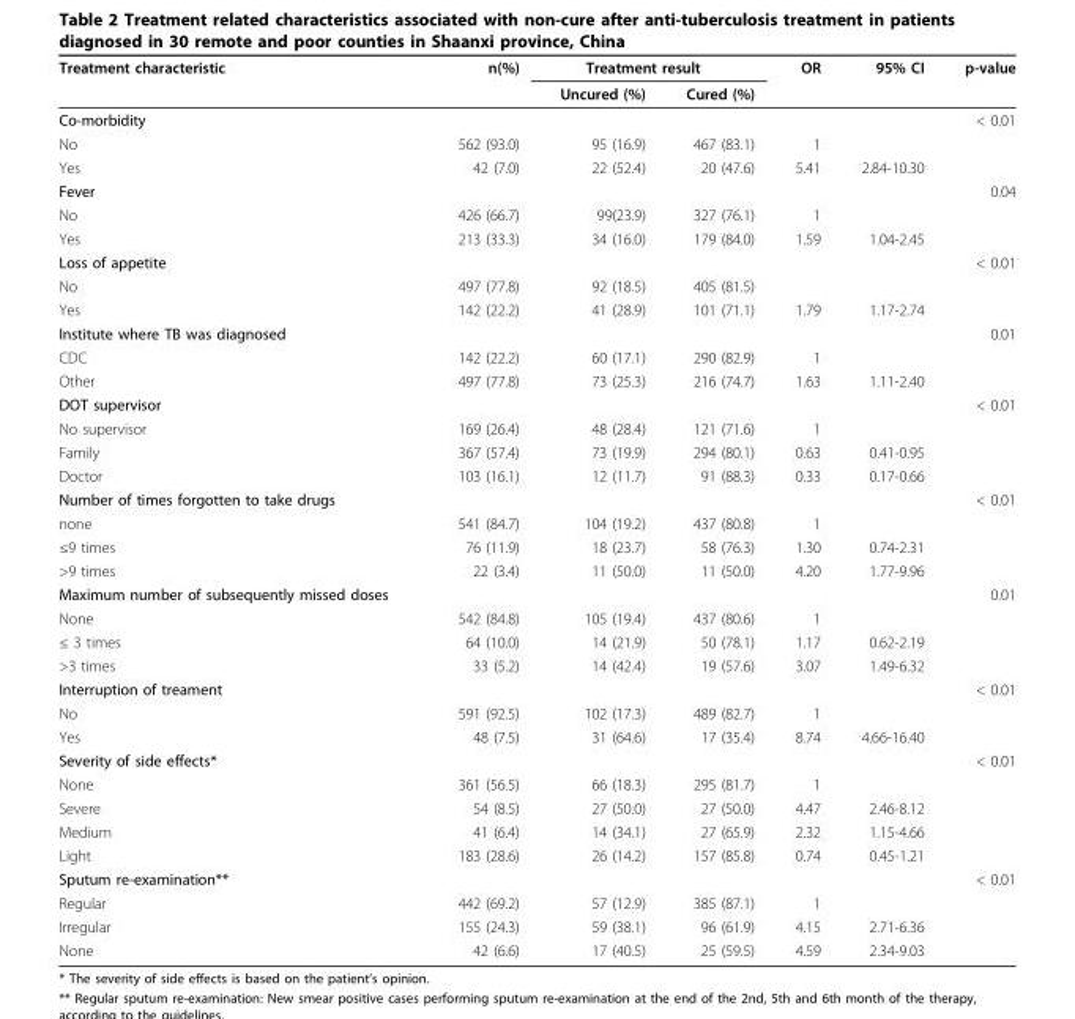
<table><thead><tr><td rowspan="2">Treatment characteristic</td><td rowspan="2">n(%)</td><td colspan="2">Treatment result</td><td rowspan="2">OR</td><td rowspan="2">95% CI</td><td rowspan="2">p-value</td></tr><tr><td>Uncured (%)</td><td>Cured (%)</td></tr></thead><tbody><tr><td>Co-morbidity</td><td></td><td></td><td></td><td></td><td></td><td>&lt; 0.01</td></tr><tr><td>No</td><td>562 (93.0)</td><td>95 (16.9)</td><td>467 (83.1)</td><td>1</td><td></td><td></td></tr><tr><td>Yes</td><td>42 (7.0)</td><td>22 (52.4)</td><td>20 (47.6)</td><td>5.41</td><td>2.84-10.30</td><td></td></tr><tr><td>Fever</td><td></td><td></td><td></td><td></td><td></td><td>0.04</td></tr><tr><td>No</td><td>426 (66.7)</td><td>99(23.9)</td><td>327 (76.1)</td><td>1</td><td></td><td></td></tr><tr><td>Yes</td><td>213 (33.3)</td><td>34 (16.0)</td><td>179 (84.0)</td><td>1.59</td><td>1.04-2.45</td><td></td></tr><tr><td>Loss of appetite</td><td></td><td></td><td></td><td></td><td></td><td>&lt; 0.01</td></tr><tr><td>No</td><td>497 (77.8)</td><td>92 (18.5)</td><td>405 (81.5)</td><td></td><td></td><td></td></tr><tr><td>Yes</td><td>142 (22.2)</td><td>41 (28.9)</td><td>101 (71.1)</td><td>1.79</td><td>1.17-2.74</td><td></td></tr><tr><td>Institute where TB was diagnosed</td><td></td><td></td><td></td><td></td><td></td><td>0.01</td></tr><tr><td>CDC</td><td>142 (22.2)</td><td>60 (17.1)</td><td>290 (82.9)</td><td>1</td><td></td><td></td></tr><tr><td>Other</td><td>497 (77.8)</td><td>73 (25.3)</td><td>216 (74.7)</td><td>1.63</td><td>1.11-2.40</td><td></td></tr><tr><td>DOT supervisor</td><td></td><td></td><td></td><td></td><td></td><td>&lt; 0.01</td></tr><tr><td>No supervisor</td><td>169 (26.4)</td><td>48 (28.4)</td><td>121 (71.6)</td><td>1</td><td></td><td></td></tr><tr><td>Family</td><td>367 (57.4)</td><td>73 (19.9)</td><td>294 (80.1)</td><td>0.63</td><td>0.41-0.95</td><td></td></tr><tr><td>Doctor</td><td>103 (16.1)</td><td>12 (11.7)</td><td>91 (88.3)</td><td>0.33</td><td>0.17-0.66</td><td></td></tr><tr><td>Number of times forgotten to take drugs</td><td></td><td></td><td></td><td></td><td></td><td>&lt; 0.01</td></tr><tr><td>none</td><td>541 (84.7)</td><td>104 (19.2)</td><td>437 (80.8)</td><td>1</td><td></td><td></td></tr><tr><td>≤9 times</td><td>76 (11.9)</td><td>18 (23.7)</td><td>58 (76.3)</td><td>1.30</td><td>0.74-2.31</td><td></td></tr><tr><td>&gt;9 times</td><td>22 (3.4)</td><td>11 (50.0)</td><td>11 (50.0)</td><td>4.20</td><td>1.77-9.96</td><td></td></tr><tr><td>Maximum number of subsequently missed doses</td><td></td><td></td><td></td><td></td><td></td><td>0.01</td></tr><tr><td>None</td><td>542 (84.8)</td><td>105 (19.4)</td><td>437 (80.6)</td><td>1</td><td></td><td></td></tr><tr><td>≤ 3 times</td><td>64 (10.0)</td><td>14 (21.9)</td><td>50 (78.1)</td><td>1.17</td><td>0.62-2.19</td><td></td></tr><tr><td>&gt;3 times</td><td>33 (5.2)</td><td>14 (42.4)</td><td>19 (57.6)</td><td>3.07</td><td>1.49-6.32</td><td></td></tr><tr><td>Interruption of treament</td><td></td><td></td><td></td><td></td><td></td><td>&lt; 0.01</td></tr><tr><td>No</td><td>591 (92.5)</td><td>102 (17.3)</td><td>489 (82.7)</td><td>1</td><td></td><td></td></tr><tr><td>Yes</td><td>48 (7.5)</td><td>31 (64.6)</td><td>17 (35.4)</td><td>8.74</td><td>4.66-16.40</td><td></td></tr><tr><td>Severity of side effects*</td><td></td><td></td><td></td><td></td><td></td><td>&lt; 0.01</td></tr><tr><td>None</td><td>361 (56.5)</td><td>66 (18.3)</td><td>295 (81.7)</td><td>1</td><td></td><td></td></tr><tr><td>Severe</td><td>54 (8.5)</td><td>27 (50.0)</td><td>27 (50.0)</td><td>4.47</td><td>2.46-8.12</td><td></td></tr><tr><td>Medium</td><td>41 (6.4)</td><td>14 (34.1)</td><td>27 (65.9)</td><td>2.32</td><td>1.15-4.66</td><td></td></tr><tr><td>Light</td><td>183 (28.6)</td><td>26 (14.2)</td><td>157 (85.8)</td><td>0.74</td><td>0.45-1.21</td><td></td></tr><tr><td>Sputum re-examination**</td><td></td><td></td><td></td><td></td><td></td><td>&lt; 0.01</td></tr><tr><td>Regular</td><td>442 (69.2)</td><td>57 (12.9)</td><td>385 (87.1)</td><td>1</td><td></td><td></td></tr><tr><td>Irregular</td><td>155 (24.3)</td><td>59 (38.1)</td><td>96 (61.9)</td><td>4.15</td><td>2.71-6.36</td><td></td></tr><tr><td>None</td><td>42 (6.6)</td><td>17 (40.5)</td><td>25 (59.5)</td><td>4.59</td><td>2.34-9.03</td><td></td></tr></tbody></table>